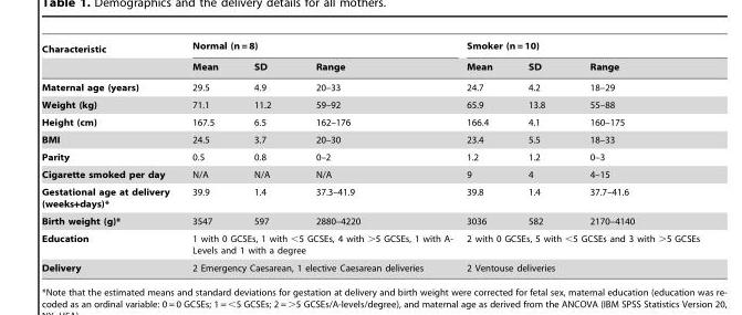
<table><thead><tr><td rowspan="2">Characteristic</td><td colspan="3">Normal (n = 8)</td><td colspan="3">Smoker (n = 10)</td></tr><tr><td>Mean</td><td>SD</td><td>Range</td><td>Mean</td><td>SD</td><td>Range</td></tr></thead><tbody><tr><td>Maternal age (years)</td><td>29.5</td><td>4.9</td><td>20–33</td><td>24.7</td><td>4.2</td><td>18–29</td></tr><tr><td>Weight (kg)</td><td>71.1</td><td>11.2</td><td>59–92</td><td>65.9</td><td>13.8</td><td>55–88</td></tr><tr><td>Height (cm)</td><td>167.5</td><td>6.5</td><td>162–176</td><td>166.4</td><td>4.1</td><td>160–175</td></tr><tr><td>BMI</td><td>24.5</td><td>3.7</td><td>20–30</td><td>23.4</td><td>5.5</td><td>18–33</td></tr><tr><td>Parity</td><td>0.5</td><td>0.8</td><td>0–2</td><td>1.2</td><td>1.2</td><td>0–3</td></tr><tr><td>Cigarette smoked per day</td><td>N/A</td><td>N/A</td><td>N/A</td><td>9</td><td>4</td><td>4–15</td></tr><tr><td>Gestational age at delivery (weeks+days)*</td><td>39.9</td><td>1.4</td><td>37.3–41.9</td><td>39.8</td><td>1.4</td><td>37.7–41.6</td></tr><tr><td>Birth weight (g)*</td><td>3547</td><td>597</td><td>2880–4220</td><td>3036</td><td>582</td><td>2170–4140</td></tr><tr><td>Education</td><td colspan="3">1 with 0 GCSEs, 1 with &lt;5 GCSEs, 4 with &gt;5 GCSEs, 1 with A- Levels and 1 with a degree</td><td colspan="3">2 with 0 GCSEs, 5 with &lt;5 GCSEs and 3 with &gt;5 GCSEs</td></tr><tr><td>Delivery</td><td colspan="3">2 Emergency Caesarean, 1 elective Caesarean deliveries</td><td colspan="3">2 Ventouse deliveries</td></tr></tbody></table>